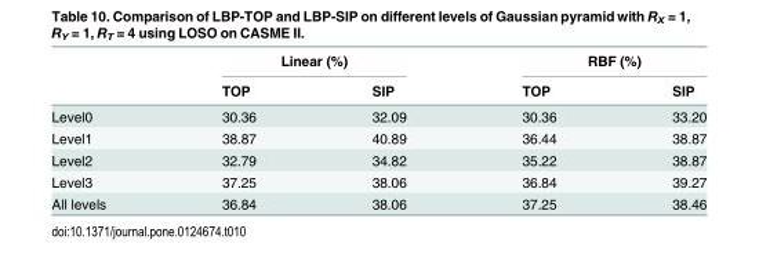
<table><thead><tr><td rowspan="2"></td><td colspan="2">Linear (%)</td><td colspan="2">RBF (%)</td></tr><tr><td>TOP</td><td>SIP</td><td>TOP</td><td>SIP</td></tr></thead><tbody><tr><td>Level0</td><td>30.36</td><td>32.09</td><td>30.36</td><td>33.20</td></tr><tr><td>Level1</td><td>38.87</td><td>40.89</td><td>36.44</td><td>38.87</td></tr><tr><td>Level2</td><td>32.79</td><td>34.82</td><td>35.22</td><td>38.87</td></tr><tr><td>Level3</td><td>37.25</td><td>38.06</td><td>36.84</td><td>39.27</td></tr><tr><td>All levels</td><td>36.84</td><td>38.06</td><td>37.25</td><td>38.46</td></tr></tbody></table>